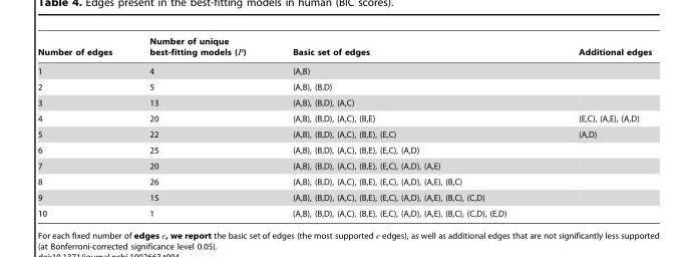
<table><thead><tr><td>Number of edges</td><td>Number of unique best-fitting models (P)</td><td>Basic set of edges</td><td>Additional edges</td></tr></thead><tbody><tr><td>1</td><td>4</td><td>(A,B)</td><td></td></tr><tr><td>2</td><td>5</td><td>(A,B), (B,D)</td><td></td></tr><tr><td>3</td><td>13</td><td>(A,B), (B,D), (A,C)</td><td></td></tr><tr><td>4</td><td>20</td><td>(A,B), (B,D), (A,C), (B,E)</td><td>(E,C), (A,E), (A,D)</td></tr><tr><td>5</td><td>22</td><td>(A,B), (B,D), (A,C), (B,E), (E,C)</td><td>(A,D)</td></tr><tr><td>6</td><td>25</td><td>(A,B), (B,D), (A,C), (B,E), (E,C), (A,D)</td><td></td></tr><tr><td>7</td><td>20</td><td>(A,B), (B,D), (A,C), (B,E), (E,C), (A,D), (A,E)</td><td></td></tr><tr><td>8</td><td>26</td><td>(A,B), (B,D), (A,C), (B,E), (E,C), (A,D), (A,E), (B,C)</td><td></td></tr><tr><td>9</td><td>15</td><td>(A,B), (B,D), (A,C), (B,E), (E,C), (A,D), (A,E), (B,C), (C,D)</td><td></td></tr><tr><td>10</td><td>1</td><td>(A,B), (B,D), (A,C), (B,E), (E,C), (A,D), (A,E), (B,C), (C,D), (E,D)</td><td></td></tr></tbody></table>